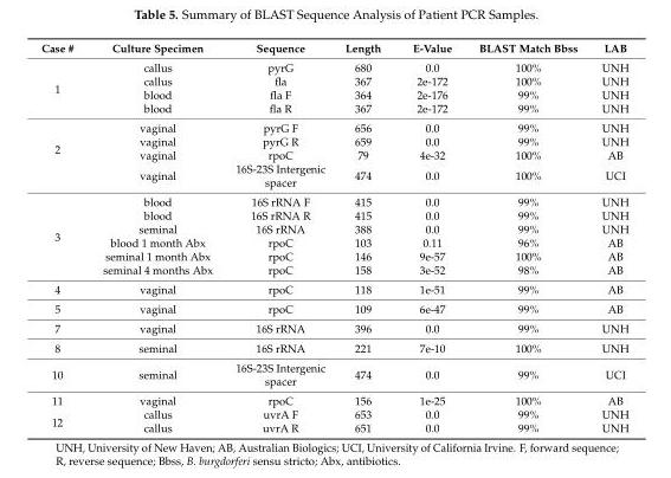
<table><thead><tr><td>Case #</td><td>Culture Specimen</td><td>Sequence</td><td>Length</td><td>E-Value</td><td>BLAST Match Bbss</td><td>LAB</td></tr></thead><tbody><tr><td rowspan="4">1</td><td>callus</td><td>pyrG</td><td>680</td><td>0.0</td><td>100%</td><td>UNH</td></tr><tr><td>callus</td><td>fla</td><td>367</td><td>2e-172</td><td>100%</td><td>UNH</td></tr><tr><td>blood</td><td>fla F</td><td>364</td><td>2e-176</td><td>99%</td><td>UNH</td></tr><tr><td>blood</td><td>fla R</td><td>367</td><td>2e-172</td><td>99%</td><td>UNH</td></tr><tr><td rowspan="4">2</td><td>vaginal</td><td>pyrG F</td><td>656</td><td>0.0</td><td>99%</td><td>UNH</td></tr><tr><td>vaginal</td><td>pyrG R</td><td>659</td><td>0.0</td><td>99%</td><td>UNH</td></tr><tr><td>vaginal</td><td>rpoC</td><td>79</td><td>4e-32</td><td>100%</td><td>AB</td></tr><tr><td>vaginal</td><td>16S-23S Intergenic spacer</td><td>474</td><td>0.0</td><td>100%</td><td>UCI</td></tr><tr><td rowspan="6">3</td><td>blood</td><td>16S rRNA F</td><td>415</td><td>0.0</td><td>99%</td><td>UNH</td></tr><tr><td>blood</td><td>16S rRNA R</td><td>415</td><td>0.0</td><td>99%</td><td>UNH</td></tr><tr><td>seminal</td><td>16S rRNA</td><td>388</td><td>0.0</td><td>99%</td><td>UNH</td></tr><tr><td>blood 1 month Abx</td><td>rpoC</td><td>103</td><td>0.11</td><td>96%</td><td>AB</td></tr><tr><td>seminal 1 month Abx</td><td>rpoC</td><td>146</td><td>9e-57</td><td>100%</td><td>AB</td></tr><tr><td>seminal 4 months Abx</td><td>rpoC</td><td>158</td><td>3e-52</td><td>98%</td><td>AB</td></tr><tr><td>4</td><td>vaginal</td><td>rpoC</td><td>118</td><td>1e-51</td><td>99%</td><td>AB</td></tr><tr><td>5</td><td>vaginal</td><td>rpoC</td><td>109</td><td>6e-47</td><td>99%</td><td>AB</td></tr><tr><td>7</td><td>vaginal</td><td>16S rRNA</td><td>396</td><td>0.0</td><td>99%</td><td>UNH</td></tr><tr><td>8</td><td>seminal</td><td>16S rRNA</td><td>221</td><td>7e-10</td><td>100%</td><td>UNH</td></tr><tr><td>10</td><td>seminal</td><td>16S-23S Intergenic spacer</td><td>474</td><td>0.0</td><td>99%</td><td>UCI</td></tr><tr><td>11</td><td>vaginal</td><td>rpoC</td><td>156</td><td>1e-25</td><td>100%</td><td>AB</td></tr><tr><td rowspan="2">12</td><td>callus</td><td>uvrA F</td><td>653</td><td>0.0</td><td>99%</td><td>UNH</td></tr><tr><td>callus</td><td>uvrA R</td><td>651</td><td>0.0</td><td>99%</td><td>UNH</td></tr></tbody></table>